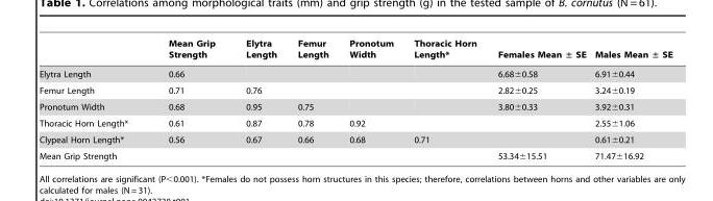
<table><thead><tr><td></td><td>Mean Grip Strength</td><td>Elytra Length</td><td>Femur Length</td><td>Pronotum Width</td><td>Thoracic Horn Length*</td><td>Females Mean ± SE</td><td>Males Mean ± SE</td></tr></thead><tbody><tr><td>Elytra Length</td><td>0.66</td><td></td><td></td><td></td><td></td><td>6.68±0.58</td><td>6.91±0.44</td></tr><tr><td>Femur Length</td><td>0.71</td><td>0.76</td><td></td><td></td><td></td><td>2.82±0.25</td><td>3.24±0.19</td></tr><tr><td>Pronotum Width</td><td>0.68</td><td>0.95</td><td>0.75</td><td></td><td></td><td>3.80±0.33</td><td>3.92±0.31</td></tr><tr><td>Thoracic Horn Length*</td><td>0.61</td><td>0.87</td><td>0.78</td><td>0.92</td><td></td><td></td><td>2.55±1.06</td></tr><tr><td>Clypeal Horn Length*</td><td>0.56</td><td>0.67</td><td>0.66</td><td>0.68</td><td>0.71</td><td></td><td>0.61±0.21</td></tr><tr><td>Mean Grip Strength</td><td></td><td></td><td></td><td></td><td></td><td>53.34±15.51</td><td>71.47±16.92</td></tr></tbody></table>